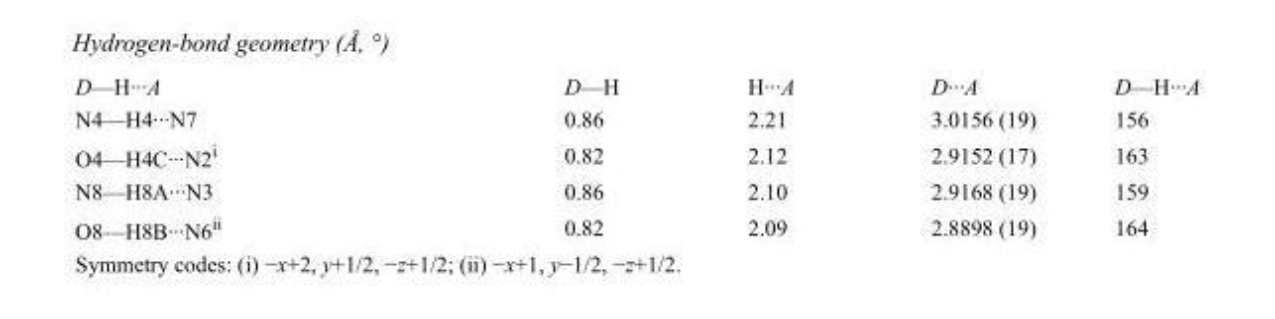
<table><tbody><tr><td>D—H···A</td><td>D—H</td><td>H···A</td><td>D···A</td><td>D—H···A</td></tr><tr><td>N4—H4···N7</td><td>0.86</td><td>2.21</td><td>3.0156 (19)</td><td>156</td></tr><tr><td>O4—H4C···N2<sup>i</sup></td><td>0.82</td><td>2.12</td><td>2.9152 (17)</td><td>163</td></tr><tr><td>N8—H8A···N3</td><td>0.86</td><td>2.10</td><td>2.9168 (19)</td><td>159</td></tr><tr><td>O8—H8B···N6<sup>ii</sup></td><td>0.82</td><td>2.09</td><td>2.8898 (19)</td><td>164</td></tr></tbody></table>